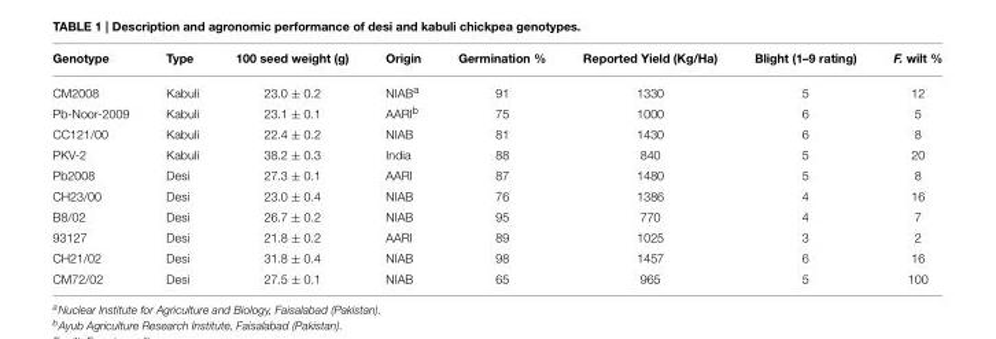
<table><thead><tr><td>Genotype</td><td>Type</td><td>100 seed weight (g)</td><td>Origin</td><td>Germination %</td><td>Reported Yield (Kg/Ha)</td><td>Blight (1–9 rating)</td><td>F. wilt %</td></tr></thead><tbody><tr><td>CM2008</td><td>Kabuli</td><td>23.0 ± 0.2</td><td>NIAB<sup>a</sup></td><td>91</td><td>1330</td><td>5</td><td>12</td></tr><tr><td>Pb-Noor-2009</td><td>Kabuli</td><td>23.1 ± 0.1</td><td>AARI<sup>b</sup></td><td>75</td><td>1000</td><td>6</td><td>5</td></tr><tr><td>CC121/00</td><td>Kabuli</td><td>22.4 ± 0.2</td><td>NIAB</td><td>81</td><td>1430</td><td>6</td><td>8</td></tr><tr><td>PKV-2</td><td>Kabuli</td><td>38.2 ± 0.3</td><td>India</td><td>88</td><td>840</td><td>5</td><td>20</td></tr><tr><td>Pb2008</td><td>Desi</td><td>27.3 ± 0.1</td><td>AARI</td><td>87</td><td>1480</td><td>5</td><td>8</td></tr><tr><td>CH23/00</td><td>Desi</td><td>23.0 ± 0.4</td><td>NIAB</td><td>76</td><td>1386</td><td>4</td><td>16</td></tr><tr><td>B8/02</td><td>Desi</td><td>26.7 ± 0.2</td><td>NIAB</td><td>95</td><td>770</td><td>4</td><td>7</td></tr><tr><td>93127</td><td>Desi</td><td>21.8 ± 0.2</td><td>AARI</td><td>89</td><td>1025</td><td>3</td><td>2</td></tr><tr><td>CH21/02</td><td>Desi</td><td>31.8 ± 0.4</td><td>NIAB</td><td>98</td><td>1457</td><td>6</td><td>16</td></tr><tr><td>CM72/02</td><td>Desi</td><td>27.5 ± 0.1</td><td>NIAB</td><td>65</td><td>965</td><td>5</td><td>100</td></tr></tbody></table>